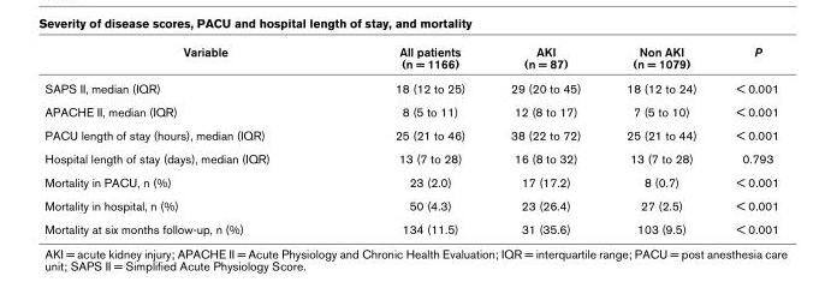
<table><thead><tr><td>Variable</td><td>All patients (n = 1166)</td><td>AKI (n = 87)</td><td>Non AKI (n = 1079)</td><td>P</td></tr></thead><tbody><tr><td>SAPS II, median (IQR)</td><td>18 (12 to 25)</td><td>29 (20 to 45)</td><td>18 (12 to 24)</td><td>&lt; 0.001</td></tr><tr><td>APACHE II, median (IQR)</td><td>8 (5 to 11)</td><td>12 (8 to 17)</td><td>7 (5 to 10)</td><td>&lt; 0.001</td></tr><tr><td>PACU length of stay (hours), median (IQR)</td><td>25 (21 to 46)</td><td>38 (22 to 72)</td><td>25 (21 to 44)</td><td>&lt; 0.001</td></tr><tr><td>Hospital length of stay (days), median (IQR)</td><td>13 (7 to 28)</td><td>16 (8 to 32)</td><td>13 (7 to 28)</td><td>0.793</td></tr><tr><td>Mortality in PACU, n (%)</td><td>23 (2.0)</td><td>17 (17.2)</td><td>8 (0.7)</td><td>&lt; 0.001</td></tr><tr><td>Mortality in hospital, n (%)</td><td>50 (4.3)</td><td>23 (26.4)</td><td>27 (2.5)</td><td>&lt; 0.001</td></tr><tr><td>Mortality at six months follow-up, n (%)</td><td>134 (11.5)</td><td>31 (35.6)</td><td>103 (9.5)</td><td>&lt; 0.001</td></tr></tbody></table>